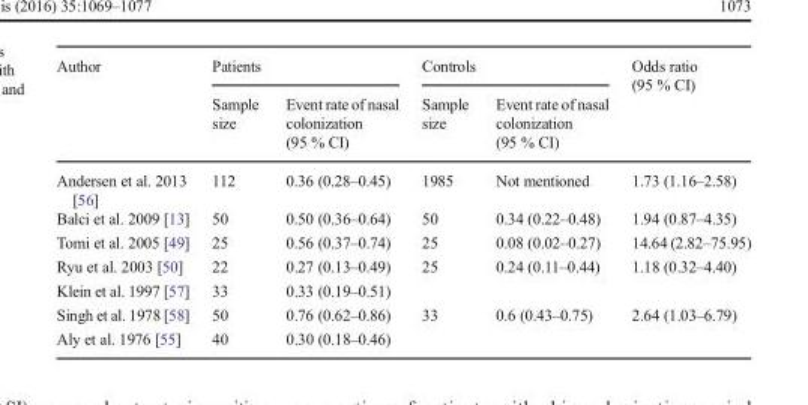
<table><thead><tr><td rowspan="2">Author</td><td colspan="2">Patients</td><td colspan="2">Controls</td><td rowspan="2">Odds ratio (95 % CI)</td></tr><tr><td>Sample size</td><td>Event rate of nasal colonization (95 % CI)</td><td>Sample size</td><td>Event rate of nasal colonization (95 % CI)</td></tr></thead><tbody><tr><td>Andersen et al. 2013 [56]</td><td>112</td><td>0.36 (0.28–0.45)</td><td>1985</td><td>Not mentioned</td><td>1.73 (1.16–2.58)</td></tr><tr><td>Balci et al. 2009 [13]</td><td>50</td><td>0.50 (0.36–0.64)</td><td>50</td><td>0.34 (0.22–0.48)</td><td>1.94 (0.87–4.35)</td></tr><tr><td>Tomi et al. 2005 [49]</td><td>25</td><td>0.56 (0.37–0.74)</td><td>25</td><td>0.08 (0.02–0.27)</td><td>14.64 (2.82–75.95)</td></tr><tr><td>Ryu et al. 2003 [50]</td><td>22</td><td>0.27 (0.13–0.49)</td><td>25</td><td>0.24 (0.11–0.44)</td><td>1.18 (0.32–4.40)</td></tr><tr><td>Klein et al. 1997 [57]</td><td>33</td><td>0.33 (0.19–0.51)</td><td></td><td></td><td></td></tr><tr><td>Singh et al. 1978 [58]</td><td>50</td><td>0.76 (0.62–0.86)</td><td>33</td><td>0.6 (0.43–0.75)</td><td>2.64 (1.03–6.79)</td></tr><tr><td>Aly et al. 1976 [55]</td><td>40</td><td>0.30 (0.18–0.46)</td><td></td><td></td><td></td></tr></tbody></table>